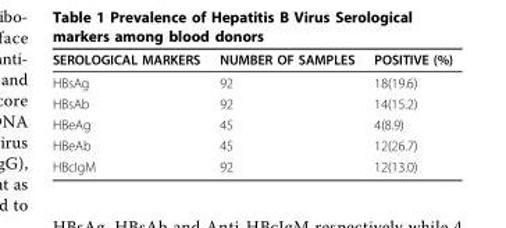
<table><thead><tr><td>SEROLOGICAL MARKERS</td><td>NUMBER OF SAMPLES</td><td>POSITIVE (%)</td></tr></thead><tbody><tr><td>HBsAg</td><td>92</td><td>18(19.6)</td></tr><tr><td>HBsAb</td><td>92</td><td>14(15.2)</td></tr><tr><td>HBeAg</td><td>45</td><td>4(8.9)</td></tr><tr><td>HBeAb</td><td>45</td><td>12(26.7)</td></tr><tr><td>HBcIgM</td><td>92</td><td>12(13.0)</td></tr></tbody></table>